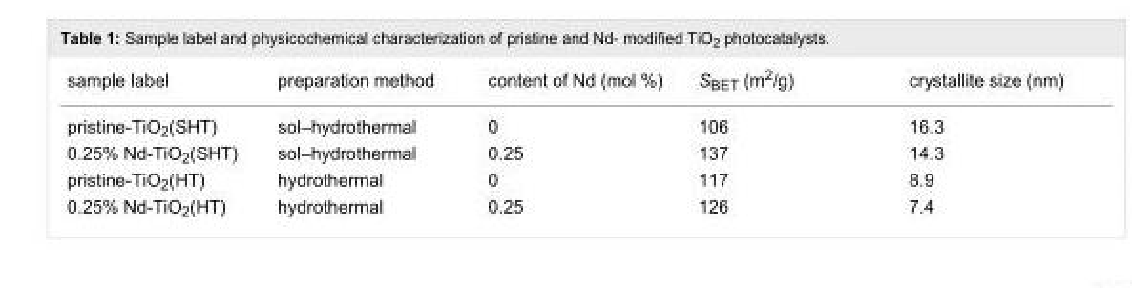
<table><tbody><tr><td>sample label</td><td>preparation method</td><td>content of Nd (mol %)</td><td>S<sub>BET</sub> (m<sup>2</sup>/g)</td><td>crystallite size (nm)</td></tr><tr><td>pristine-TiO<sub>2</sub>(SHT)</td><td>sol–hydrothermal</td><td>0</td><td>106</td><td>16.3</td></tr><tr><td>0.25% Nd-TiO<sub>2</sub>(SHT)</td><td>sol–hydrothermal</td><td>0.25</td><td>137</td><td>14.3</td></tr><tr><td>pristine-TiO<sub>2</sub>(HT)</td><td>hydrothermal</td><td>0</td><td>117</td><td>8.9</td></tr><tr><td>0.25% Nd-TiO<sub>2</sub>(HT)</td><td>hydrothermal</td><td>0.25</td><td>126</td><td>7.4</td></tr></tbody></table>